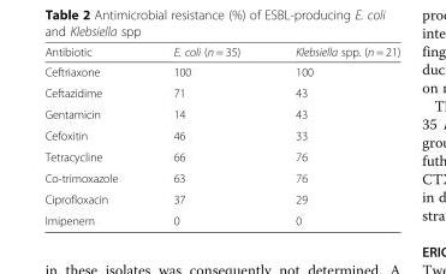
<table><thead><tr><td>Antibiotic</td><td>E. coli (n = 35)</td><td>Klebsiella spp. (n = 21)</td></tr></thead><tbody><tr><td>Ceftriaxone</td><td>100</td><td>100</td></tr><tr><td>Ceftazidime</td><td>71</td><td>43</td></tr><tr><td>Gentamicin</td><td>14</td><td>43</td></tr><tr><td>Cefoxitin</td><td>46</td><td>33</td></tr><tr><td>Tetracycline</td><td>66</td><td>76</td></tr><tr><td>Co-trimoxazole</td><td>63</td><td>76</td></tr><tr><td>Ciprofloxacin</td><td>37</td><td>29</td></tr><tr><td>Imipenem</td><td>0</td><td>0</td></tr></tbody></table>